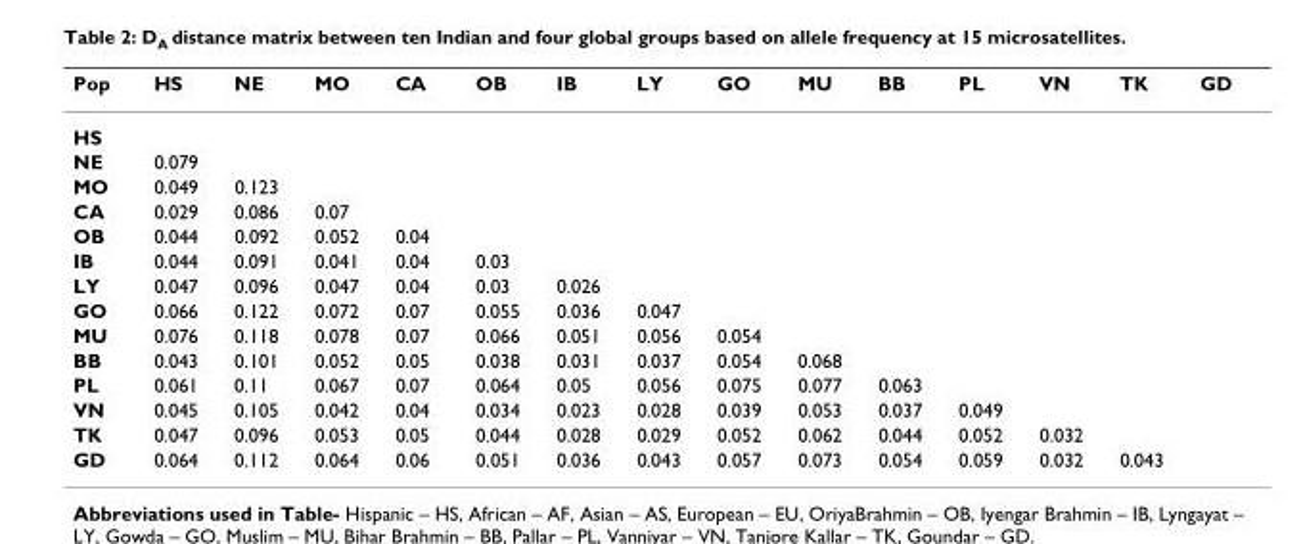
<table><thead><tr><td>Pop</td><td>HS</td><td>NE</td><td>MO</td><td>CA</td><td>OB</td><td>IB</td><td>LY</td><td>GO</td><td>MU</td><td>BB</td><td>PL</td><td>VN</td><td>TK</td><td>GD</td></tr></thead><tbody><tr><td colspan="15">HS</td></tr><tr><td>NE</td><td>0.079</td><td></td><td></td><td></td><td></td><td></td><td></td><td></td><td></td><td></td><td></td><td></td><td></td><td></td></tr><tr><td>MO</td><td>0.049</td><td>0.123</td><td></td><td></td><td></td><td></td><td></td><td></td><td></td><td></td><td></td><td></td><td></td><td></td></tr><tr><td>CA</td><td>0.029</td><td>0.086</td><td>0.07</td><td></td><td></td><td></td><td></td><td></td><td></td><td></td><td></td><td></td><td></td><td></td></tr><tr><td>OB</td><td>0.044</td><td>0.092</td><td>0.052</td><td>0.04</td><td></td><td></td><td></td><td></td><td></td><td></td><td></td><td></td><td></td><td></td></tr><tr><td>IB</td><td>0.044</td><td>0.091</td><td>0.041</td><td>0.04</td><td>0.03</td><td></td><td></td><td></td><td></td><td></td><td></td><td></td><td></td><td></td></tr><tr><td>LY</td><td>0.047</td><td>0.096</td><td>0.047</td><td>0.04</td><td>0.03</td><td>0.026</td><td></td><td></td><td></td><td></td><td></td><td></td><td></td><td></td></tr><tr><td>GO</td><td>0.066</td><td>0.122</td><td>0.072</td><td>0.07</td><td>0.055</td><td>0.036</td><td>0.047</td><td></td><td></td><td></td><td></td><td></td><td></td><td></td></tr><tr><td>MU</td><td>0.076</td><td>0.118</td><td>0.078</td><td>0.07</td><td>0.066</td><td>0.051</td><td>0.056</td><td>0.054</td><td></td><td></td><td></td><td></td><td></td><td></td></tr><tr><td>BB</td><td>0.043</td><td>0.101</td><td>0.052</td><td>0.05</td><td>0.038</td><td>0.031</td><td>0.037</td><td>0.054</td><td>0.068</td><td></td><td></td><td></td><td></td><td></td></tr><tr><td>PL</td><td>0.061</td><td>0.11</td><td>0.067</td><td>0.07</td><td>0.064</td><td>0.05</td><td>0.056</td><td>0.075</td><td>0.077</td><td>0.063</td><td></td><td></td><td></td><td></td></tr><tr><td>VN</td><td>0.045</td><td>0.105</td><td>0.042</td><td>0.04</td><td>0.034</td><td>0.023</td><td>0.028</td><td>0.039</td><td>0.053</td><td>0.037</td><td>0.049</td><td></td><td></td><td></td></tr><tr><td>TK</td><td>0.047</td><td>0.096</td><td>0.053</td><td>0.05</td><td>0.044</td><td>0.028</td><td>0.029</td><td>0.052</td><td>0.062</td><td>0.044</td><td>0.052</td><td>0.032</td><td></td><td></td></tr><tr><td>GD</td><td>0.064</td><td>0.112</td><td>0.064</td><td>0.06</td><td>0.051</td><td>0.036</td><td>0.043</td><td>0.057</td><td>0.073</td><td>0.054</td><td>0.059</td><td>0.032</td><td>0.043</td><td></td></tr></tbody></table>